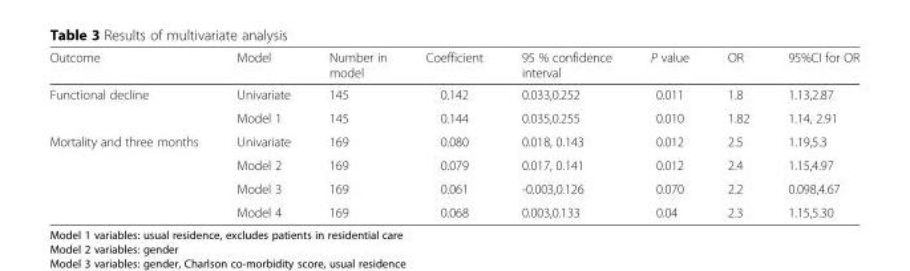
<table><thead><tr><td>Outcome</td><td>Model</td><td>Number in model</td><td>Coefficient</td><td>95 % confidence interval</td><td>P value</td><td>OR</td><td>95%CI for OR</td></tr></thead><tbody><tr><td rowspan="2">Functional decline</td><td>Univariate</td><td>145</td><td>0.142</td><td>0.033,0.252</td><td>0.011</td><td>1.8</td><td>1.13,2.87</td></tr><tr><td>Model 1</td><td>145</td><td>0.144</td><td>0.035,0.255</td><td>0.010</td><td>1.82</td><td>1.14, 2.91</td></tr><tr><td rowspan="4">Mortality and three months</td><td>Univariate</td><td>169</td><td>0.080</td><td>0.018, 0.143</td><td>0.012</td><td>2.5</td><td>1.19,5.3</td></tr><tr><td>Model 2</td><td>169</td><td>0.079</td><td>0.017, 0.141</td><td>0.012</td><td>2.4</td><td>1.15,4.97</td></tr><tr><td>Model 3</td><td>169</td><td>0.061</td><td>-0.003,0.126</td><td>0.070</td><td>2.2</td><td>0.098,4.67</td></tr><tr><td>Model 4</td><td>169</td><td>0.068</td><td>0.003,0.133</td><td>0.04</td><td>2.3</td><td>1.15,5.30</td></tr></tbody></table>